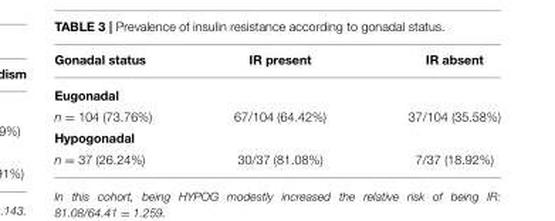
<table><thead><tr><td>Gonadal status</td><td>IR present</td><td>IR absent</td></tr></thead><tbody><tr><td colspan="3">Eugonadal</td></tr><tr><td>n = 104 (73.76%)</td><td>67/104 (64.42%)</td><td>37/104 (35.58%)</td></tr><tr><td colspan="3">Hypogonadal</td></tr><tr><td>n = 37 (26.24%)</td><td>30/37 (81.08%)</td><td>7/37 (18.92%)</td></tr></tbody></table>